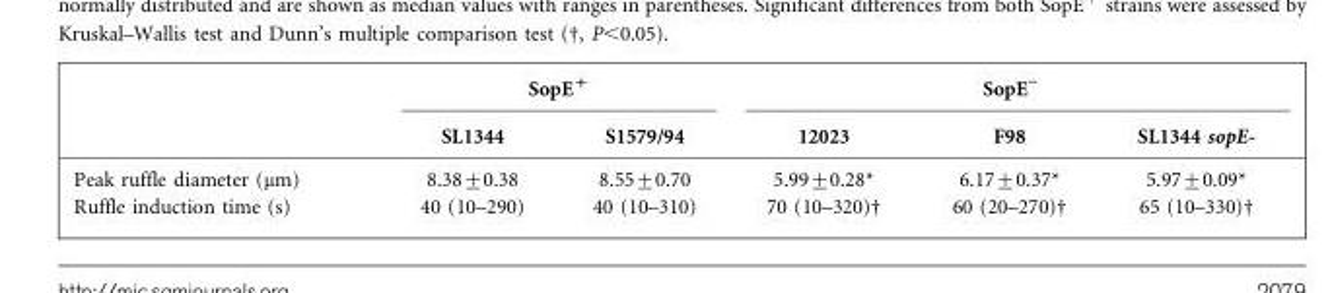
<table><thead><tr><td rowspan="2"></td><td colspan="2">SopE<sup>+</sup></td><td colspan="3">SopE”</td></tr><tr><td>SL1344</td><td>S1579/94</td><td>12023</td><td>F98</td><td>SL1344 sopE-</td></tr></thead><tbody><tr><td>Peak ruffle diameter (µm)</td><td>8.38±0.38</td><td>8.55±0.70</td><td>5.99±0.28*</td><td>6.17±0.37*</td><td>5.97±0.09*</td></tr><tr><td>Ruffle induction time (s)</td><td>40 (10–290)</td><td>40 (10–310)</td><td>70 (10–320)†</td><td>60 (20–270)†</td><td>65 (10–330)†</td></tr></tbody></table>